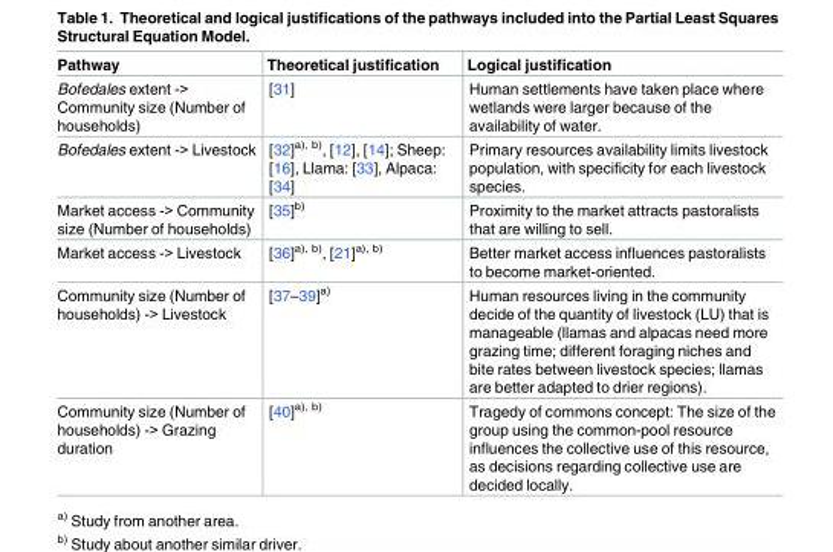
<table><thead><tr><td>Pathway</td><td>Theoretical justification</td><td>Logical justification</td></tr></thead><tbody><tr><td>Bofedales extent -&gt; Community size (Number of households)</td><td>[31]</td><td>Human settlements have taken place where wetlands were larger because of the availability of water.</td></tr><tr><td>Bofedales extent -&gt; Livestock</td><td>[32]<sup>a), b)</sup>, [12], [14]; Sheep: [16], Llama: [33], Alpaca: [34]</td><td>Primary resources availability limits livestock population, with specificity for each livestock species.</td></tr><tr><td>Market access -&gt; Community size (Number of households)</td><td>[35]<sup>b)</sup></td><td>Proximity to the market attracts pastoralists that are willing to sell.</td></tr><tr><td>Market access -&gt; Livestock</td><td>[36]<sup>a), b)</sup>, [21]<sup>a), b)</sup></td><td>Better market access influences pastoralists to become market-oriented.</td></tr><tr><td>Community size (Number of households) -&gt; Livestock</td><td>[37–39]<sup>a)</sup></td><td>Human resources living in the community decide of the quantity of livestock (LU) that is manageable (llamas and alpacas need more grazing time; different foraging niches and bite rates between livestock species; llamas are better adapted to drier regions).</td></tr><tr><td>Community size (Number of households) -&gt; Grazing duration</td><td>[40]<sup>a), b)</sup></td><td>Tragedy of commons concept: The size of the group using the common-pool resource influences the collective use of this resource, as decisions regarding collective use are decided locally.</td></tr></tbody></table>